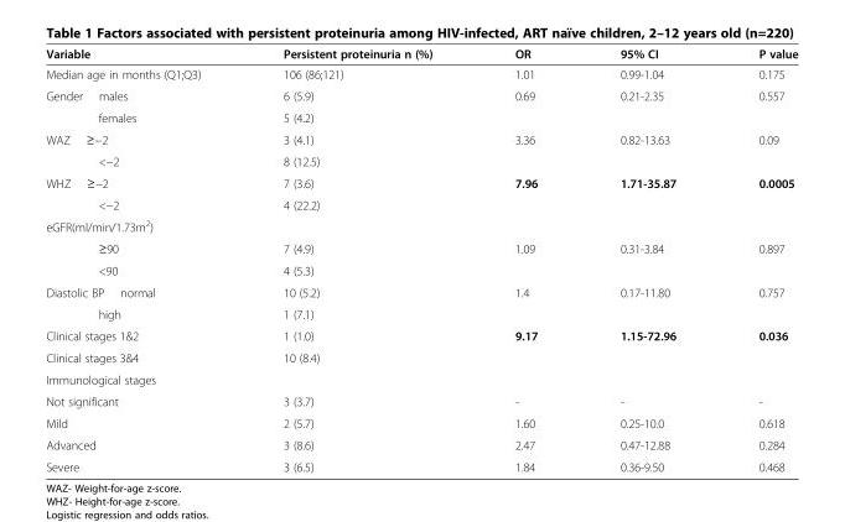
<table><thead><tr><td>Variable</td><td>Persistent proteinuria n (%)</td><td>OR</td><td>95% CI</td><td>P value</td></tr></thead><tbody><tr><td>Median age in months (Q1;Q3)</td><td>106 (86;121)</td><td>1.01</td><td>0.99-1.04</td><td>0.175</td></tr><tr><td>Gender males</td><td>6 (5.9)</td><td rowspan="2">0.69</td><td rowspan="2">0.21-2.35</td><td rowspan="2">0.557</td></tr><tr><td>females</td><td>5 (4.2)</td></tr><tr><td>WAZ ≥−2</td><td>3 (4.1)</td><td rowspan="2">3.36</td><td rowspan="2">0.82-13.63</td><td rowspan="2">0.09</td></tr><tr><td>&lt;−2</td><td>8 (12.5)</td></tr><tr><td>WHZ ≥−2</td><td>7 (3.6)</td><td rowspan="2">7.96</td><td rowspan="2">1.71-35.87</td><td rowspan="2">0.0005</td></tr><tr><td>&lt;−2</td><td>4 (22.2)</td></tr><tr><td colspan="5">eGFR(ml/min/1.73m<sup>2</sup>)</td></tr><tr><td>≥90</td><td>7 (4.9)</td><td rowspan="2">1.09</td><td rowspan="2">0.31-3.84</td><td rowspan="2">0.897</td></tr><tr><td>&lt;90</td><td>4 (5.3)</td></tr><tr><td>Diastolic BP normal</td><td>10 (5.2)</td><td rowspan="2">1.4</td><td rowspan="2">0.17-11.80</td><td rowspan="2">0.757</td></tr><tr><td>high</td><td>1 (7.1)</td></tr><tr><td>Clinical stages 1&amp;2</td><td>1 (1.0)</td><td rowspan="2">9.17</td><td rowspan="2">1.15-72.96</td><td rowspan="2">0.036</td></tr><tr><td>Clinical stages 3&amp;4</td><td>10 (8.4)</td></tr><tr><td colspan="5">Immunological stages</td></tr><tr><td>Not significant</td><td>3 (3.7)</td><td>-</td><td>-</td><td>-</td></tr><tr><td>Mild</td><td>2 (5.7)</td><td>1.60</td><td>0.25-10.0</td><td>0.618</td></tr><tr><td>Advanced</td><td>3 (8.6)</td><td>2.47</td><td>0.47-12.88</td><td>0.284</td></tr><tr><td>Severe</td><td>3 (6.5)</td><td>1.84</td><td>0.36-9.50</td><td>0.468</td></tr></tbody></table>